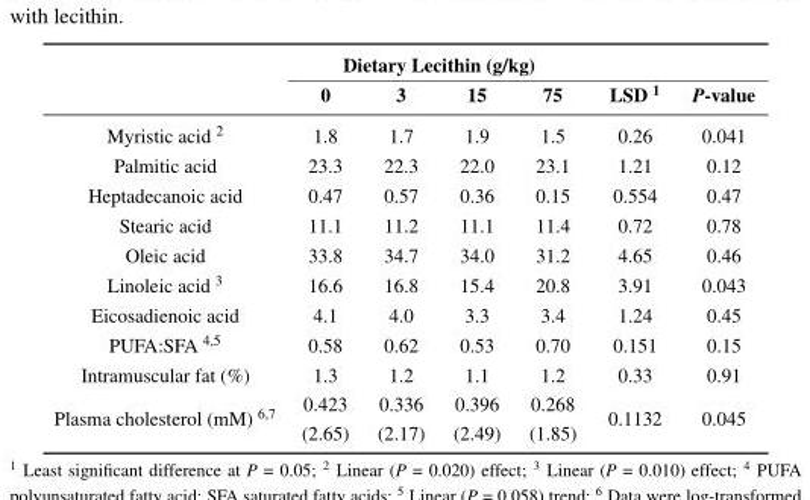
<table><thead><tr><td rowspan="2"></td><td colspan="4">Dietary Lecithin (g/kg)</td><td rowspan="2">LSD <sup>1</sup></td><td rowspan="2">P-value</td></tr><tr><td>0</td><td>3</td><td>15</td><td>75</td></tr></thead><tbody><tr><td>Myristic acid <sup>2</sup></td><td>1.8</td><td>1.7</td><td>1.9</td><td>1.5</td><td>0.26</td><td>0.041</td></tr><tr><td>Palmitic acid</td><td>23.3</td><td>22.3</td><td>22.0</td><td>23.1</td><td>1.21</td><td>0.12</td></tr><tr><td>Heptadecanoic acid</td><td>0.47</td><td>0.57</td><td>0.36</td><td>0.15</td><td>0.554</td><td>0.47</td></tr><tr><td>Stearic acid</td><td>11.1</td><td>11.2</td><td>11.1</td><td>11.4</td><td>0.72</td><td>0.78</td></tr><tr><td>Oleic acid</td><td>33.8</td><td>34.7</td><td>34.0</td><td>31.2</td><td>4.65</td><td>0.46</td></tr><tr><td>Linoleic acid <sup>3</sup></td><td>16.6</td><td>16.8</td><td>15.4</td><td>20.8</td><td>3.91</td><td>0.043</td></tr><tr><td>Eicosadienoic acid</td><td>4.1</td><td>4.0</td><td>3.3</td><td>3.4</td><td>1.24</td><td>0.45</td></tr><tr><td>PUFA:SFA <sup>4,5</sup></td><td>0.58</td><td>0.62</td><td>0.53</td><td>0.70</td><td>0.151</td><td>0.15</td></tr><tr><td>Intramuscular fat (%)</td><td>1.3</td><td>1.2</td><td>1.1</td><td>1.2</td><td>0.33</td><td>0.91</td></tr><tr><td>Plasma cholesterol (mM) <sup>6,7</sup></td><td>0.423 (2.65)</td><td>0.336 (2.17)</td><td>0.396 (2.49)</td><td>0.268 (1.85)</td><td>0.1132</td><td>0.045</td></tr></tbody></table>